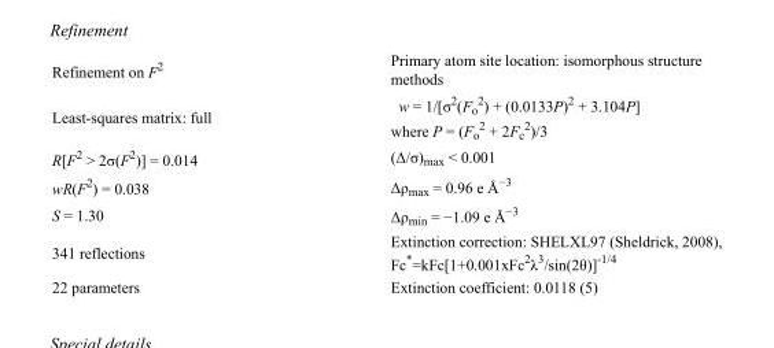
<table><tbody><tr><td>Refinement on F<sup>2</sup></td><td>Primary atom site location: isomorphous structure methods</td></tr><tr><td>Least-squares matrix: full</td><td>w = 1/[σ<sup>2</sup>(F<sub>o</sub> <sup>2</sup>) + (0.0133P)<sup>2</sup> + 3.104P] where P = (F<sub>o</sub> <sup>2</sup> + 2F<sub>c</sub> <sup>2</sup>)/3</td></tr><tr><td>R[F<sup>2</sup> &gt; 2σ(F<sup>2</sup>)] = 0.014</td><td>(Δ/σ)<sub>max</sub> &lt; 0.001</td></tr><tr><td>wR(F<sup>2</sup>) = 0.038</td><td>Δρ<sub>max</sub> = 0.96 e Å<sup>−3</sup></td></tr><tr><td>S = 1.30</td><td>Δρ<sub>min</sub> = −1.09 e Å<sup>−3</sup></td></tr><tr><td>341 reflections</td><td>Extinction correction: SHELXL97 (Sheldrick, 2008), Fc*=kFc[1+0.001xFc<sup>2</sup>λ<sup>3</sup>/sin(2θ)]<sup>-1/4</sup></td></tr><tr><td>22 parameters</td><td>Extinction coefficient: 0.0118 (5)</td></tr></tbody></table>